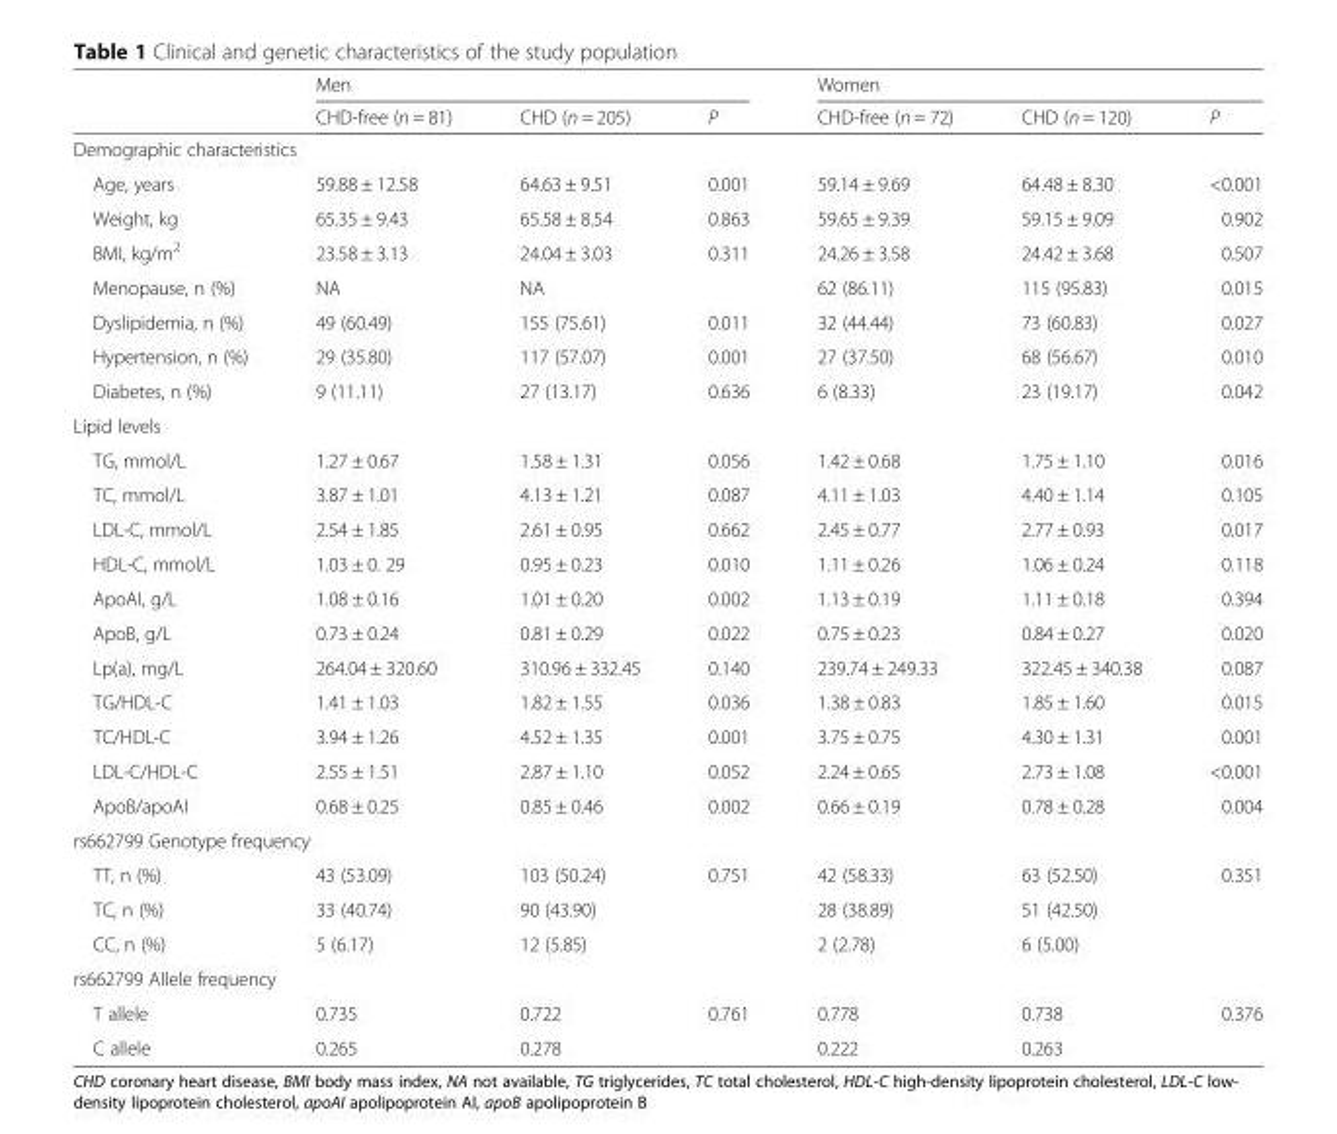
<table><thead><tr><td rowspan="2"></td><td colspan="3">Men</td><td colspan="3">Women</td></tr><tr><td>CHD-free (n = 81)</td><td>CHD (n = 205)</td><td>P</td><td>CHD-free (n = 72)</td><td>CHD (n = 120)</td><td>P</td></tr></thead><tbody><tr><td colspan="7">Demographic characteristics</td></tr><tr><td>Age, years</td><td>59.88 ± 12.58</td><td>64.63 ± 9.51</td><td>0.001</td><td>59.14 ± 9.69</td><td>64.48 ± 8.30</td><td>&lt;0.001</td></tr><tr><td>Weight, kg</td><td>65.35 ± 9.43</td><td>65.58 ± 8.54</td><td>0.863</td><td>59.65 ± 9.39</td><td>59.15 ± 9.09</td><td>0.902</td></tr><tr><td>BMI, kg/m<sup>2</sup></td><td>23.58 ± 3.13</td><td>24.04 ± 3.03</td><td>0.311</td><td>24.26 ± 3.58</td><td>24.42 ± 3.68</td><td>0.507</td></tr><tr><td>Menopause, n (%)</td><td>NA</td><td>NA</td><td></td><td>62 (86.11)</td><td>115 (95.83)</td><td>0.015</td></tr><tr><td>Dyslipidemia, n (%)</td><td>49 (60.49)</td><td>155 (75.61)</td><td>0.011</td><td>32 (44.44)</td><td>73 (60.83)</td><td>0.027</td></tr><tr><td>Hypertension, n (%)</td><td>29 (35.80)</td><td>117 (57.07)</td><td>0.001</td><td>27 (37.50)</td><td>68 (56.67)</td><td>0.010</td></tr><tr><td>Diabetes, n (%)</td><td>9 (11.11)</td><td>27 (13.17)</td><td>0.636</td><td>6 (8.33)</td><td>23 (19.17)</td><td>0.042</td></tr><tr><td colspan="7">Lipid levels</td></tr><tr><td>TG, mmol/L</td><td>1.27 ± 0.67</td><td>1.58 ± 1.31</td><td>0.056</td><td>1.42 ± 0.68</td><td>1.75 ± 1.10</td><td>0.016</td></tr><tr><td>TC, mmol/L</td><td>3.87 ± 1.01</td><td>4.13 ± 1.21</td><td>0.087</td><td>4.11 ± 1.03</td><td>4.40 ± 1.14</td><td>0.105</td></tr><tr><td>LDL-C, mmol/L</td><td>2.54 ± 1.85</td><td>2.61 ± 0.95</td><td>0.662</td><td>2.45 ± 0.77</td><td>2.77 ± 0.93</td><td>0.017</td></tr><tr><td>HDL-C, mmol/L</td><td>1.03 ± 0. 29</td><td>0.95 ± 0.23</td><td>0.010</td><td>1.11 ± 0.26</td><td>1.06 ± 0.24</td><td>0.118</td></tr><tr><td>ApoAI, g/L</td><td>1.08 ± 0.16</td><td>1.01 ± 0.20</td><td>0.002</td><td>1.13 ± 0.19</td><td>1.11 ± 0.18</td><td>0.394</td></tr><tr><td>ApoB, g/L</td><td>0.73 ± 0.24</td><td>0.81 ± 0.29</td><td>0.022</td><td>0.75 ± 0.23</td><td>0.84 ± 0.27</td><td>0.020</td></tr><tr><td>Lp(a), mg/L</td><td>264.04 ± 320.60</td><td>310.96 ± 332.45</td><td>0.140</td><td>239.74 ± 249.33</td><td>322.45 ± 340.38</td><td>0.087</td></tr><tr><td>TG/HDL-C</td><td>1.41 ± 1.03</td><td>1.82 ± 1.55</td><td>0.036</td><td>1.38 ± 0.83</td><td>1.85 ± 1.60</td><td>0.015</td></tr><tr><td>TC/HDL-C</td><td>3.94 ± 1.26</td><td>4.52 ± 1.35</td><td>0.001</td><td>3.75 ± 0.75</td><td>4.30 ± 1.31</td><td>0.001</td></tr><tr><td>LDL-C/HDL-C</td><td>2.55 ± 1.51</td><td>2.87 ± 1.10</td><td>0.052</td><td>2.24 ± 0.65</td><td>2.73 ± 1.08</td><td>&lt;0.001</td></tr><tr><td>ApoB/apoAI</td><td>0.68 ± 0.25</td><td>0.85 ± 0.46</td><td>0.002</td><td>0.66 ± 0.19</td><td>0.78 ± 0.28</td><td>0.004</td></tr><tr><td colspan="7">rs662799 Genotype frequency</td></tr><tr><td>TT, n (%)</td><td>43 (53.09)</td><td>103 (50.24)</td><td>0.751</td><td>42 (58.33)</td><td>63 (52.50)</td><td>0.351</td></tr><tr><td>TC, n (%)</td><td>33 (40.74)</td><td>90 (43.90)</td><td></td><td>28 (38.89)</td><td>51 (42.50)</td><td></td></tr><tr><td>CC, n (%)</td><td>5 (6.17)</td><td>12 (5.85)</td><td></td><td>2 (2.78)</td><td>6 (5.00)</td><td></td></tr><tr><td colspan="7">rs662799 Allele frequency</td></tr><tr><td>T allele</td><td>0.735</td><td>0.722</td><td>0.761</td><td>0.778</td><td>0.738</td><td>0.376</td></tr><tr><td>C allele</td><td>0.265</td><td>0.278</td><td></td><td>0.222</td><td>0.263</td><td></td></tr></tbody></table>